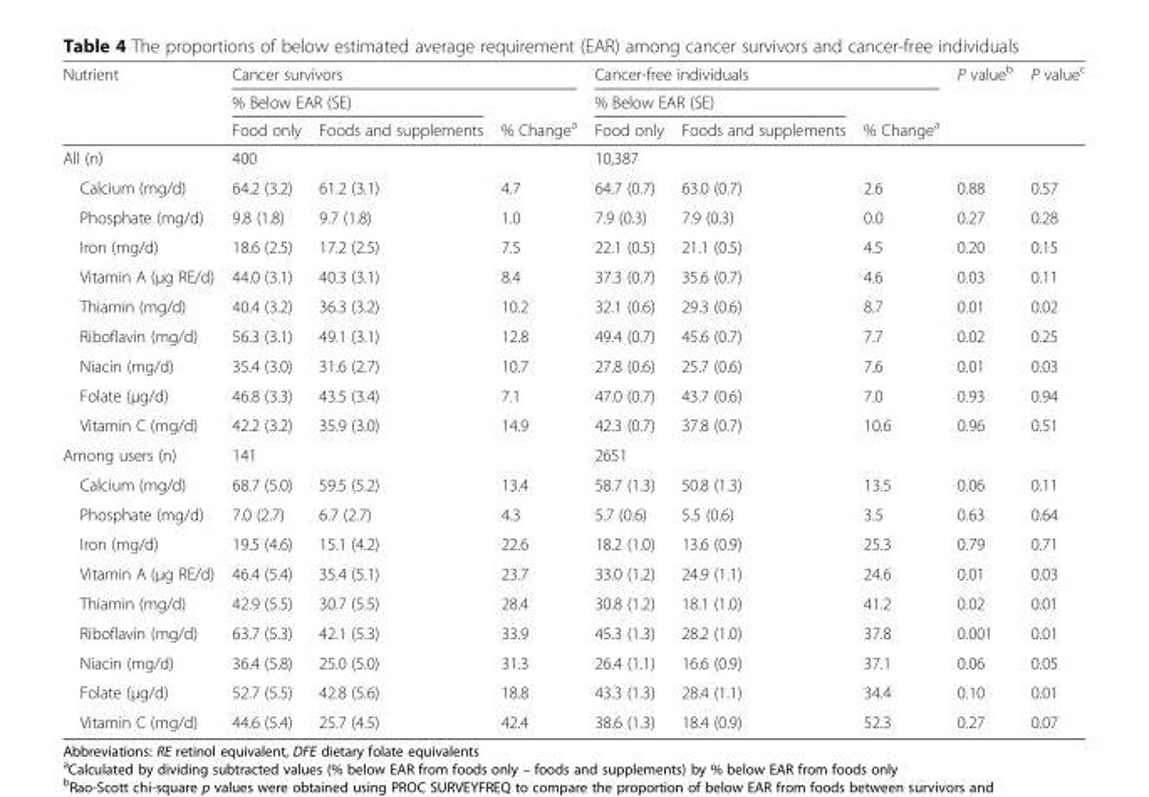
<table><thead><tr><td rowspan="3">Nutrient</td><td colspan="3">Cancer survivors</td><td colspan="3">Cancer-free individuals</td><td rowspan="3">P value<sup>b</sup></td><td rowspan="3">P value<sup>c</sup></td></tr><tr><td colspan="2">% Below EAR (SE)</td><td rowspan="2">% Change<sup>a</sup></td><td colspan="2">% Below EAR (SE)</td><td rowspan="2">% Change<sup>a</sup></td></tr><tr><td>Food only</td><td>Foods and supplements</td><td>Food only</td><td>Foods and supplements</td></tr></thead><tbody><tr><td>All (n)</td><td colspan="3">400</td><td colspan="3">10,387</td><td></td><td></td></tr><tr><td>Calcium (mg/d)</td><td>64.2 (3.2)</td><td>61.2 (3.1)</td><td>4.7</td><td>64.7 (0.7)</td><td>63.0 (0.7)</td><td>2.6</td><td>0.88</td><td>0.57</td></tr><tr><td>Phosphate (mg/d)</td><td>9.8 (1.8)</td><td>9.7 (1.8)</td><td>1.0</td><td>7.9 (0.3)</td><td>7.9 (0.3)</td><td>0.0</td><td>0.27</td><td>0.28</td></tr><tr><td>Iron (mg/d)</td><td>18.6 (2.5)</td><td>17.2 (2.5)</td><td>7.5</td><td>22.1 (0.5)</td><td>21.1 (0.5)</td><td>4.5</td><td>0.20</td><td>0.15</td></tr><tr><td>Vitamin A (μg RE/d)</td><td>44.0 (3.1)</td><td>40.3 (3.1)</td><td>8.4</td><td>37.3 (0.7)</td><td>35.6 (0.7)</td><td>4.6</td><td>0.03</td><td>0.11</td></tr><tr><td>Thiamin (mg/d)</td><td>40.4 (3.2)</td><td>36.3 (3.2)</td><td>10.2</td><td>32.1 (0.6)</td><td>29.3 (0.6)</td><td>8.7</td><td>0.01</td><td>0.02</td></tr><tr><td>Riboflavin (mg/d)</td><td>56.3 (3.1)</td><td>49.1 (3.1)</td><td>12.8</td><td>49.4 (0.7)</td><td>45.6 (0.7)</td><td>7.7</td><td>0.02</td><td>0.25</td></tr><tr><td>Niacin (mg/d)</td><td>35.4 (3.0)</td><td>31.6 (2.7)</td><td>10.7</td><td>27.8 (0.6)</td><td>25.7 (0.6)</td><td>7.6</td><td>0.01</td><td>0.03</td></tr><tr><td>Folate (μg/d)</td><td>46.8 (3.3)</td><td>43.5 (3.4)</td><td>7.1</td><td>47.0 (0.7)</td><td>43.7 (0.6)</td><td>7.0</td><td>0.93</td><td>0.94</td></tr><tr><td>Vitamin C (mg/d)</td><td>42.2 (3.2)</td><td>35.9 (3.0)</td><td>14.9</td><td>42.3 (0.7)</td><td>37.8 (0.7)</td><td>10.6</td><td>0.96</td><td>0.51</td></tr><tr><td>Among users (n)</td><td colspan="3">141</td><td colspan="3">2651</td><td></td><td></td></tr><tr><td>Calcium (mg/d)</td><td>68.7 (5.0)</td><td>59.5 (5.2)</td><td>13.4</td><td>58.7 (1.3)</td><td>50.8 (1.3)</td><td>13.5</td><td>0.06</td><td>0.11</td></tr><tr><td>Phosphate (mg/d)</td><td>7.0 (2.7)</td><td>6.7 (2.7)</td><td>4.3</td><td>5.7 (0.6)</td><td>5.5 (0.6)</td><td>3.5</td><td>0.63</td><td>0.64</td></tr><tr><td>Iron (mg/d)</td><td>19.5 (4.6)</td><td>15.1 (4.2)</td><td>22.6</td><td>18.2 (1.0)</td><td>13.6 (0.9)</td><td>25.3</td><td>0.79</td><td>0.71</td></tr><tr><td>Vitamin A (μg RE/d)</td><td>46.4 (5.4)</td><td>35.4 (5.1)</td><td>23.7</td><td>33.0 (1.2)</td><td>24.9 (1.1)</td><td>24.6</td><td>0.01</td><td>0.03</td></tr><tr><td>Thiamin (mg/d)</td><td>42.9 (5.5)</td><td>30.7 (5.5)</td><td>28.4</td><td>30.8 (1.2)</td><td>18.1 (1.0)</td><td>41.2</td><td>0.02</td><td>0.01</td></tr><tr><td>Riboflavin (mg/d)</td><td>63.7 (5.3)</td><td>42.1 (5.3)</td><td>33.9</td><td>45.3 (1.3)</td><td>28.2 (1.0)</td><td>37.8</td><td>0.001</td><td>0.01</td></tr><tr><td>Niacin (mg/d)</td><td>36.4 (5.8)</td><td>25.0 (5.0)</td><td>31.3</td><td>26.4 (1.1)</td><td>16.6 (0.9)</td><td>37.1</td><td>0.06</td><td>0.05</td></tr><tr><td>Folate (μg/d)</td><td>52.7 (5.5)</td><td>42.8 (5.6)</td><td>18.8</td><td>43.3 (1.3)</td><td>28.4 (1.1)</td><td>34.4</td><td>0.10</td><td>0.01</td></tr><tr><td>Vitamin C (mg/d)</td><td>44.6 (5.4)</td><td>25.7 (4.5)</td><td>42.4</td><td>38.6 (1.3)</td><td>18.4 (0.9)</td><td>52.3</td><td>0.27</td><td>0.07</td></tr></tbody></table>